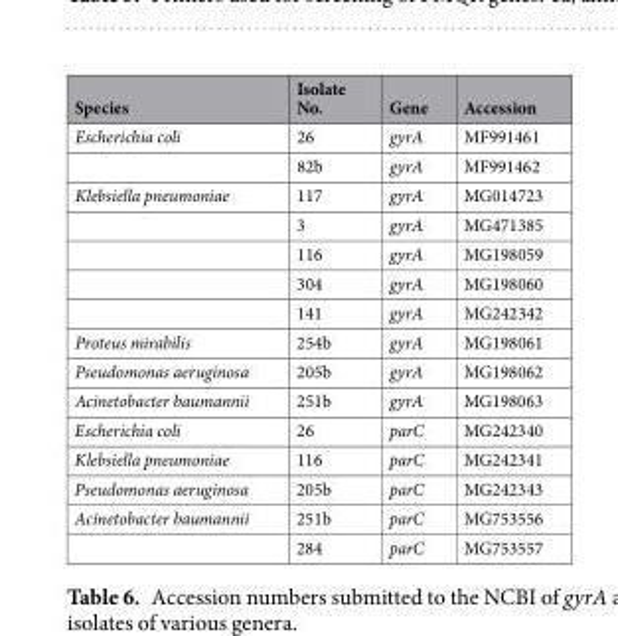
<table><thead><tr><td>Species</td><td>Isolate No.</td><td>Gene</td><td>Accession</td></tr></thead><tbody><tr><td rowspan="2">Escherichia coli</td><td>26</td><td>gyrA</td><td>MF991461</td></tr><tr><td>82b</td><td>gyrA</td><td>MF991462</td></tr><tr><td rowspan="5">Klebsiella pneumoniae</td><td>117</td><td>gyrA</td><td>MG014723</td></tr><tr><td>3</td><td>gyrA</td><td>MG471385</td></tr><tr><td>116</td><td>gyrA</td><td>MG198059</td></tr><tr><td>304</td><td>gyrA</td><td>MG198060</td></tr><tr><td>141</td><td>gyrA</td><td>MG242342</td></tr><tr><td>Proteus mirabilis</td><td>254b</td><td>gyrA</td><td>MG198061</td></tr><tr><td>Pseudomonas aeruginosa</td><td>205b</td><td>gyrA</td><td>MG198062</td></tr><tr><td>Acinetobacter baumannii</td><td>251b</td><td>gyrA</td><td>MG198063</td></tr><tr><td>Escherichia coli</td><td>26</td><td>parC</td><td>MG242340</td></tr><tr><td>Klebsiella pneumoniae</td><td>116</td><td>parC</td><td>MG242341</td></tr><tr><td>Pseudomonas aeruginosa</td><td>205b</td><td>parC</td><td>MG242343</td></tr><tr><td rowspan="2">Acinetobacter baumannii</td><td>251b</td><td>parC</td><td>MG753556</td></tr><tr><td>284</td><td>parC</td><td>MG753557</td></tr></tbody></table>